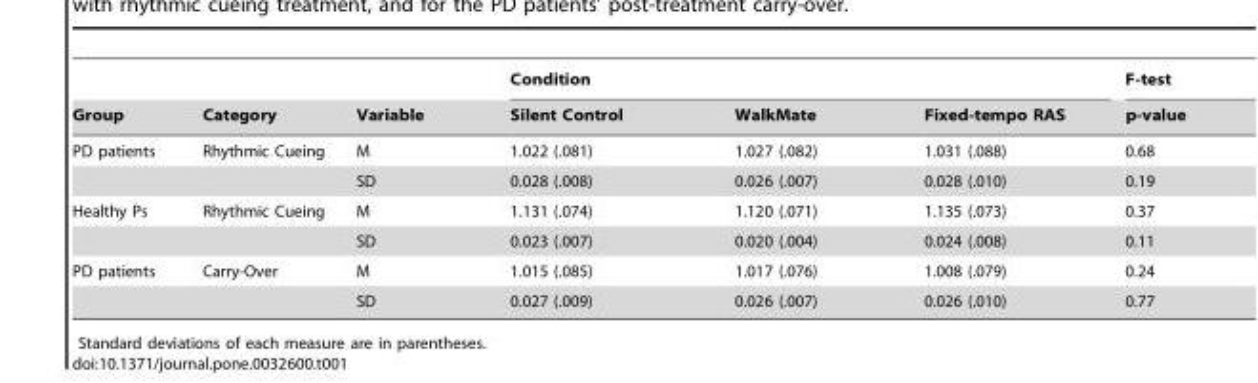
<table><thead><tr><td rowspan="2">Group</td><td rowspan="2">Category</td><td rowspan="2">Variable</td><td colspan="3">Condition</td><td rowspan="2">F-test p-value</td></tr><tr><td>Silent Control</td><td>WalkMate</td><td>Fixed-tempo RAS</td></tr></thead><tbody><tr><td rowspan="2">PD patients</td><td>Rhythmic Cueing</td><td>M</td><td>1.022 (.081)</td><td>1.027 (.082)</td><td>1.031 (.088)</td><td>0.68</td></tr><tr><td></td><td>SD</td><td>0.028 (.008)</td><td>0.026 (.007)</td><td>0.028 (.010)</td><td>0.19</td></tr><tr><td rowspan="2">Healthy Ps</td><td>Rhythmic Cueing</td><td>M</td><td>1.131 (.074)</td><td>1.120 (.071)</td><td>1.135 (.073)</td><td>0.37</td></tr><tr><td></td><td>SD</td><td>0.023 (.007)</td><td>0.020 (.004)</td><td>0.024 (.008)</td><td>0.11</td></tr><tr><td rowspan="2">PD patients</td><td>Carry-Over</td><td>M</td><td>1.015 (.085)</td><td>1.017 (.076)</td><td>1.008 (.079)</td><td>0.24</td></tr><tr><td></td><td>SD</td><td>0.027 (.009)</td><td>0.026 (.007)</td><td>0.026 (.010)</td><td>0.77</td></tr></tbody></table>